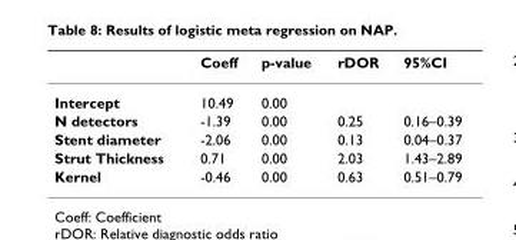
<table><thead><tr><td></td><td>Coeff</td><td>p-value</td><td>rDOR</td><td>95%CI</td></tr></thead><tbody><tr><td>Intercept</td><td>10.49</td><td>0.00</td><td></td><td></td></tr><tr><td>N detectors</td><td>-1.39</td><td>0.00</td><td>0.25</td><td>0.16–0.39</td></tr><tr><td>Stent diameter</td><td>-2.06</td><td>0.00</td><td>0.13</td><td>0.04–0.37</td></tr><tr><td>Strut Thickness</td><td>0.71</td><td>0.00</td><td>2.03</td><td>1.43–2.89</td></tr><tr><td>Kernel</td><td>-0.46</td><td>0.00</td><td>0.63</td><td>0.51–0.79</td></tr></tbody></table>